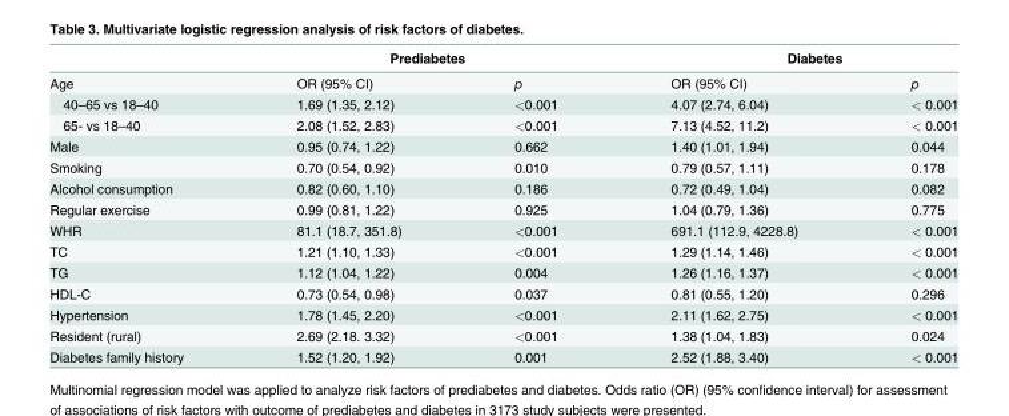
<table><thead><tr><td rowspan="2">Age</td><td colspan="2">Prediabetes</td><td colspan="2">Diabetes</td></tr><tr><td>OR (95% CI)</td><td>p</td><td>OR (95% CI)</td><td>p</td></tr></thead><tbody><tr><td>40–65 vs 18–40</td><td>1.69 (1.35, 2.12)</td><td>&lt;0.001</td><td>4.07 (2.74, 6.04)</td><td>&lt; 0.001</td></tr><tr><td>65- vs 18–40</td><td>2.08 (1.52, 2.83)</td><td>&lt;0.001</td><td>7.13 (4.52, 11.2)</td><td>&lt; 0.001</td></tr><tr><td>Male</td><td>0.95 (0.74, 1.22)</td><td>0.662</td><td>1.40 (1.01, 1.94)</td><td>0.044</td></tr><tr><td>Smoking</td><td>0.70 (0.54, 0.92)</td><td>0.010</td><td>0.79 (0.57, 1.11)</td><td>0.178</td></tr><tr><td>Alcohol consumption</td><td>0.82 (0.60, 1.10)</td><td>0.186</td><td>0.72 (0.49, 1.04)</td><td>0.082</td></tr><tr><td>Regular exercise</td><td>0.99 (0.81, 1.22)</td><td>0.925</td><td>1.04 (0.79, 1.36)</td><td>0.775</td></tr><tr><td>WHR</td><td>81.1 (18.7, 351.8)</td><td>&lt;0.001</td><td>691.1 (112.9, 4228.8)</td><td>&lt; 0.001</td></tr><tr><td>TC</td><td>1.21 (1.10, 1.33)</td><td>&lt;0.001</td><td>1.29 (1.14, 1.46)</td><td>&lt; 0.001</td></tr><tr><td>TG</td><td>1.12 (1.04, 1.22)</td><td>0.004</td><td>1.26 (1.16, 1.37)</td><td>&lt; 0.001</td></tr><tr><td>HDL-C</td><td>0.73 (0.54, 0.98)</td><td>0.037</td><td>0.81 (0.55, 1.20)</td><td>0.296</td></tr><tr><td>Hypertension</td><td>1.78 (1.45, 2.20)</td><td>&lt;0.001</td><td>2.11 (1.62, 2.75)</td><td>&lt; 0.001</td></tr><tr><td>Resident (rural)</td><td>2.69 (2.18. 3.32)</td><td>&lt;0.001</td><td>1.38 (1.04, 1.83)</td><td>0.024</td></tr><tr><td>Diabetes family history</td><td>1.52 (1.20, 1.92)</td><td>0.001</td><td>2.52 (1.88, 3.40)</td><td>&lt; 0.001</td></tr></tbody></table>